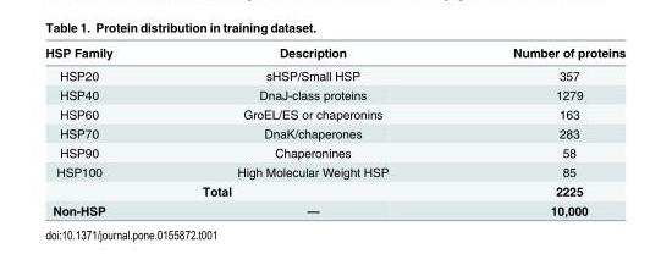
<table><thead><tr><td>HSP Family</td><td>Description</td><td>Number of proteins</td></tr></thead><tbody><tr><td>HSP20</td><td>sHSP/Small HSP</td><td>357</td></tr><tr><td>HSP40</td><td>DnaJ-class proteins</td><td>1279</td></tr><tr><td>HSP60</td><td>GroEL/ES or chaperonins</td><td>163</td></tr><tr><td>HSP70</td><td>DnaK/chaperones</td><td>283</td></tr><tr><td>HSP90</td><td>Chaperonines</td><td>58</td></tr><tr><td>HSP100</td><td>High Molecular Weight HSP</td><td>85</td></tr><tr><td colspan="2">Total</td><td>2225</td></tr><tr><td>Non-HSP</td><td>—</td><td>10,000</td></tr></tbody></table>